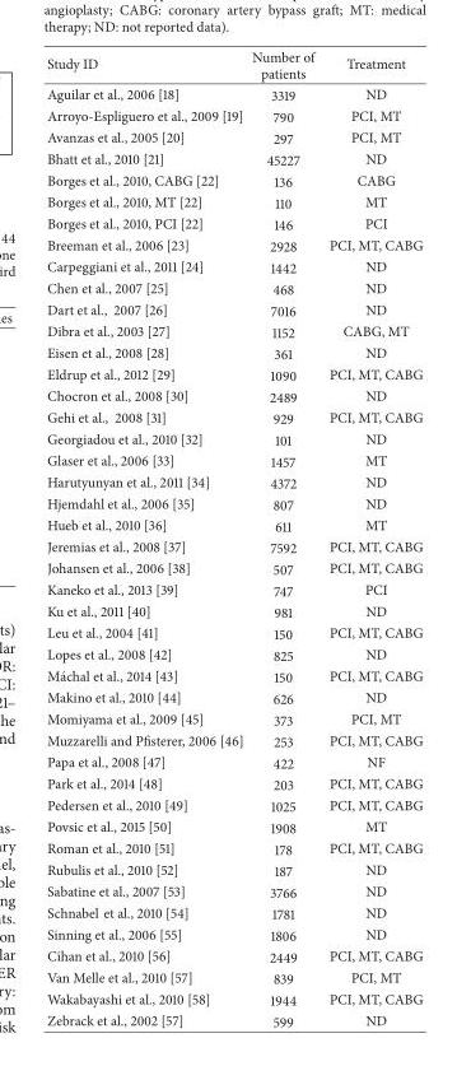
<table><thead><tr><td>Study ID</td><td>Number of patients</td><td>Treatment</td></tr></thead><tbody><tr><td>Aguilar et al., 2006 [18]</td><td>3319</td><td>ND</td></tr><tr><td>Arroyo-Espliguero et al., 2009 [19]</td><td>790</td><td>PCI, MT</td></tr><tr><td>Avanzas et al., 2005 [20]</td><td>297</td><td>PCI, MT</td></tr><tr><td>Bhatt et al., 2010 [21]</td><td>45227</td><td>ND</td></tr><tr><td>Borges et al., 2010, CABG [22]</td><td>136</td><td>CABG</td></tr><tr><td>Borges et al., 2010, MT [22]</td><td>110</td><td>MT</td></tr><tr><td>Borges et al., 2010, PCI [22]</td><td>146</td><td>PCI</td></tr><tr><td>Breeman et al., 2006 [23]</td><td>2928</td><td>PCI, MT, CABG</td></tr><tr><td>Carpeggiani et al., 2011 [24]</td><td>1442</td><td>ND</td></tr><tr><td>Chen et al., 2007 [25]</td><td>468</td><td>ND</td></tr><tr><td>Dart et al., 2007 [26]</td><td>7016</td><td>ND</td></tr><tr><td>Dibra et al., 2003 [27]</td><td>1152</td><td>CABG, MT</td></tr><tr><td>Eisen et al., 2008 [28]</td><td>361</td><td>ND</td></tr><tr><td>Eldrup et al., 2012 [29]</td><td>1090</td><td>PCI, MT, CABG</td></tr><tr><td>Chocron et al., 2008 [30]</td><td>2489</td><td>ND</td></tr><tr><td>Gehi et al., 2008 [31]</td><td>929</td><td>PCI, MT, CABG</td></tr><tr><td>Georgiadou et al., 2010 [32]</td><td>101</td><td>ND</td></tr><tr><td>Glaser et al., 2006 [33]</td><td>1457</td><td>MT</td></tr><tr><td>Harutyunyan et al., 2011 [34]</td><td>4372</td><td>ND</td></tr><tr><td>Hjemdahl et al., 2006 [35]</td><td>807</td><td>ND</td></tr><tr><td>Hueb et al., 2010 [36]</td><td>611</td><td>MT</td></tr><tr><td>Jeremias et al., 2008 [37]</td><td>7592</td><td>PCI, MT, CABG</td></tr><tr><td>Johansen et al., 2006 [38]</td><td>507</td><td>PCI, MT, CABG</td></tr><tr><td>Kaneko et al., 2013 [39]</td><td>747</td><td>PCI</td></tr><tr><td>Ku et al., 2011 [40]</td><td>981</td><td>ND</td></tr><tr><td>Leu et al., 2004 [41]</td><td>150</td><td>PCI, MT, CABG</td></tr><tr><td>Lopes et al., 2008 [42]</td><td>825</td><td>ND</td></tr><tr><td>M´achal et al., 2014 [43]</td><td>150</td><td>PCI, MT, CABG</td></tr><tr><td>Makino et al., 2010 [44]</td><td>626</td><td>ND</td></tr><tr><td>Momiyama et al., 2009 [45]</td><td>373</td><td>PCI, MT</td></tr><tr><td>Muzzarelli and Pfisterer, 2006 [46]</td><td>253</td><td>PCI, MT, CABG</td></tr><tr><td>Papa et al., 2008 [47]</td><td>422</td><td>NF</td></tr><tr><td>Park et al., 2014 [48]</td><td>203</td><td>PCI, MT, CABG</td></tr><tr><td>Pedersen et al., 2010 [49]</td><td>1025</td><td>PCI, MT, CABG</td></tr><tr><td>Povsic et al., 2015 [50]</td><td>1908</td><td>MT</td></tr><tr><td>Roman et al., 2010 [51]</td><td>178</td><td>PCI, MT, CABG</td></tr><tr><td>Rubulis et al., 2010 [52]</td><td>187</td><td>ND</td></tr><tr><td>Sabatine et al., 2007 [53]</td><td>3766</td><td>ND</td></tr><tr><td>Schnabel et al., 2010 [54]</td><td>1781</td><td>ND</td></tr><tr><td>Sinning et al., 2006 [55]</td><td>1806</td><td>ND</td></tr><tr><td>Cihan et al., 2010 [56]</td><td>2449</td><td>PCI, MT, CABG</td></tr><tr><td>Van Melle et al., 2010 [57]</td><td>839</td><td>PCI, MT</td></tr><tr><td>Wakabayashi et al., 2010 [58]</td><td>1944</td><td>PCI, MT, CABG</td></tr><tr><td>Zebrack et al., 2002 [57]</td><td>599</td><td>ND</td></tr></tbody></table>